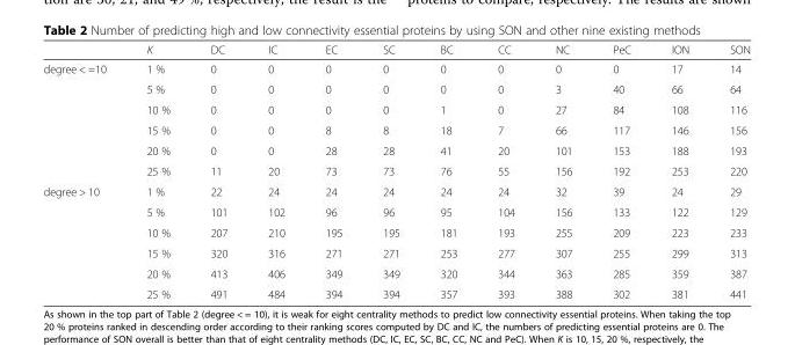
<table><thead><tr><td></td><td>K</td><td>DC</td><td>IC</td><td>EC</td><td>SC</td><td>BC</td><td>CC</td><td>NC</td><td>PeC</td><td>ION</td><td>SON</td></tr></thead><tbody><tr><td rowspan="6">degree &lt; =10</td><td>1 %</td><td>0</td><td>0</td><td>0</td><td>0</td><td>0</td><td>0</td><td>0</td><td>0</td><td>17</td><td>14</td></tr><tr><td>5 %</td><td>0</td><td>0</td><td>0</td><td>0</td><td>0</td><td>0</td><td>3</td><td>40</td><td>66</td><td>64</td></tr><tr><td>10 %</td><td>0</td><td>0</td><td>0</td><td>0</td><td>1</td><td>0</td><td>27</td><td>84</td><td>108</td><td>116</td></tr><tr><td>15 %</td><td>0</td><td>0</td><td>8</td><td>8</td><td>18</td><td>7</td><td>66</td><td>117</td><td>146</td><td>156</td></tr><tr><td>20 %</td><td>0</td><td>0</td><td>28</td><td>28</td><td>41</td><td>20</td><td>101</td><td>153</td><td>188</td><td>193</td></tr><tr><td>25 %</td><td>11</td><td>20</td><td>73</td><td>73</td><td>76</td><td>55</td><td>156</td><td>192</td><td>253</td><td>220</td></tr><tr><td rowspan="6">degree &gt; 10</td><td>1 %</td><td>22</td><td>24</td><td>24</td><td>24</td><td>24</td><td>24</td><td>32</td><td>39</td><td>24</td><td>29</td></tr><tr><td>5 %</td><td>101</td><td>102</td><td>96</td><td>96</td><td>95</td><td>104</td><td>156</td><td>133</td><td>122</td><td>129</td></tr><tr><td>10 %</td><td>207</td><td>210</td><td>195</td><td>195</td><td>181</td><td>193</td><td>255</td><td>209</td><td>223</td><td>233</td></tr><tr><td>15 %</td><td>320</td><td>316</td><td>271</td><td>271</td><td>253</td><td>277</td><td>307</td><td>255</td><td>299</td><td>313</td></tr><tr><td>20 %</td><td>413</td><td>406</td><td>349</td><td>349</td><td>320</td><td>344</td><td>363</td><td>285</td><td>359</td><td>387</td></tr><tr><td>25 %</td><td>491</td><td>484</td><td>394</td><td>394</td><td>357</td><td>393</td><td>388</td><td>302</td><td>381</td><td>441</td></tr></tbody></table>